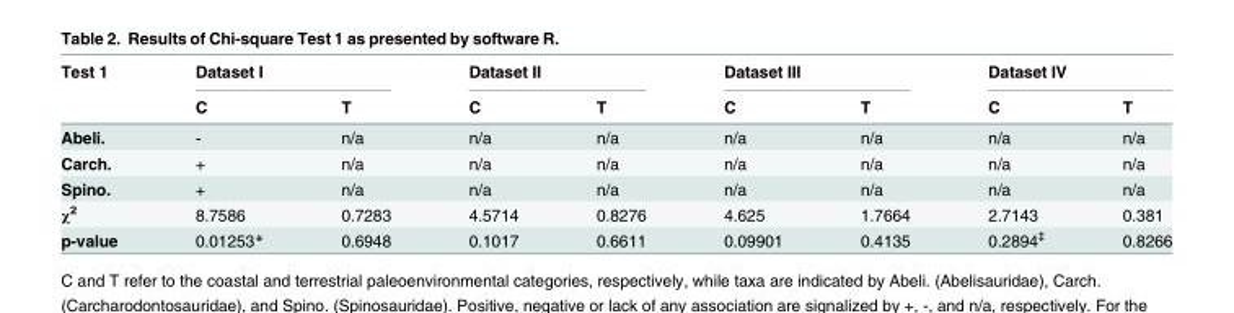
<table><thead><tr><td rowspan="2">Test 1</td><td colspan="2">Dataset I</td><td colspan="2">Dataset II</td><td colspan="2">Dataset III</td><td colspan="2">Dataset IV</td></tr><tr><td>C</td><td>T</td><td>C</td><td>T</td><td>C</td><td>T</td><td>C</td><td>T</td></tr></thead><tbody><tr><td>Abeli.</td><td>-</td><td>n/a</td><td>n/a</td><td>n/a</td><td>n/a</td><td>n/a</td><td>n/a</td><td>n/a</td></tr><tr><td>Carch.</td><td>+</td><td>n/a</td><td>n/a</td><td>n/a</td><td>n/a</td><td>n/a</td><td>n/a</td><td>n/a</td></tr><tr><td>Spino.</td><td>+</td><td>n/a</td><td>n/a</td><td>n/a</td><td>n/a</td><td>n/a</td><td>n/a</td><td>n/a</td></tr><tr><td>χ<sup>2</sup></td><td>8.7586</td><td>0.7283</td><td>4.5714</td><td>0.8276</td><td>4.625</td><td>1.7664</td><td>2.7143</td><td>0.381</td></tr><tr><td>p-value</td><td>0.01253*</td><td>0.6948</td><td>0.1017</td><td>0.6611</td><td>0.09901</td><td>0.4135</td><td>0.2894<sup>‡</sup></td><td>0.8266</td></tr></tbody></table>